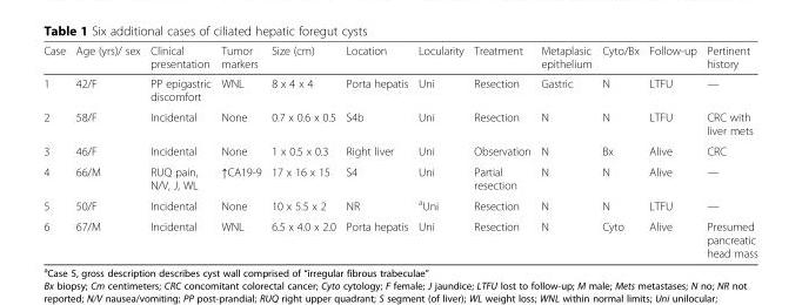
<table><thead><tr><td>Case</td><td>Age (yrs)/ sex</td><td>Clinical presentation</td><td>Tumor markers</td><td>Size (cm)</td><td>Location</td><td>Locularity</td><td>Treatment</td><td>Metaplasic epithelium</td><td>Cyto/Bx</td><td>Follow-up</td><td>Pertinent history</td></tr></thead><tbody><tr><td>1</td><td>42/F</td><td>PP epigastric discomfort</td><td>WNL</td><td>8 x 4 x 4</td><td>Porta hepatis</td><td>Uni</td><td>Resection</td><td>Gastric</td><td>N</td><td>LTFU</td><td>—</td></tr><tr><td>2</td><td>58/F</td><td>Incidental</td><td>None</td><td>0.7 x 0.6 x 0.5</td><td>S4b</td><td>Uni</td><td>Resection</td><td>N</td><td>N</td><td>LTFU</td><td>CRC with liver mets</td></tr><tr><td>3</td><td>46/F</td><td>Incidental</td><td>None</td><td>1 x 0.5 x 0.3</td><td>Right liver</td><td>Uni</td><td>Observation</td><td>N</td><td>Bx</td><td>Alive</td><td>CRC</td></tr><tr><td>4</td><td>66/M</td><td>RUQ pain, N/V, J, WL</td><td>↑CA19-9</td><td>17 x 16 x 15</td><td>S4</td><td>Uni</td><td>Partial resection</td><td>N</td><td>N</td><td>Alive</td><td>—</td></tr><tr><td>5</td><td>50/F</td><td>Incidental</td><td>None</td><td>10 x 5.5 x 2</td><td>NR</td><td><sup>a</sup>Uni</td><td>Resection</td><td>N</td><td>N</td><td>LTFU</td><td>—</td></tr><tr><td>6</td><td>67/M</td><td>Incidental</td><td>WNL</td><td>6.5 x 4.0 x 2.0</td><td>Porta hepatis</td><td>Uni</td><td>Resection</td><td>N</td><td>Cyto</td><td>Alive</td><td>Presumed pancreatic head mass</td></tr></tbody></table>